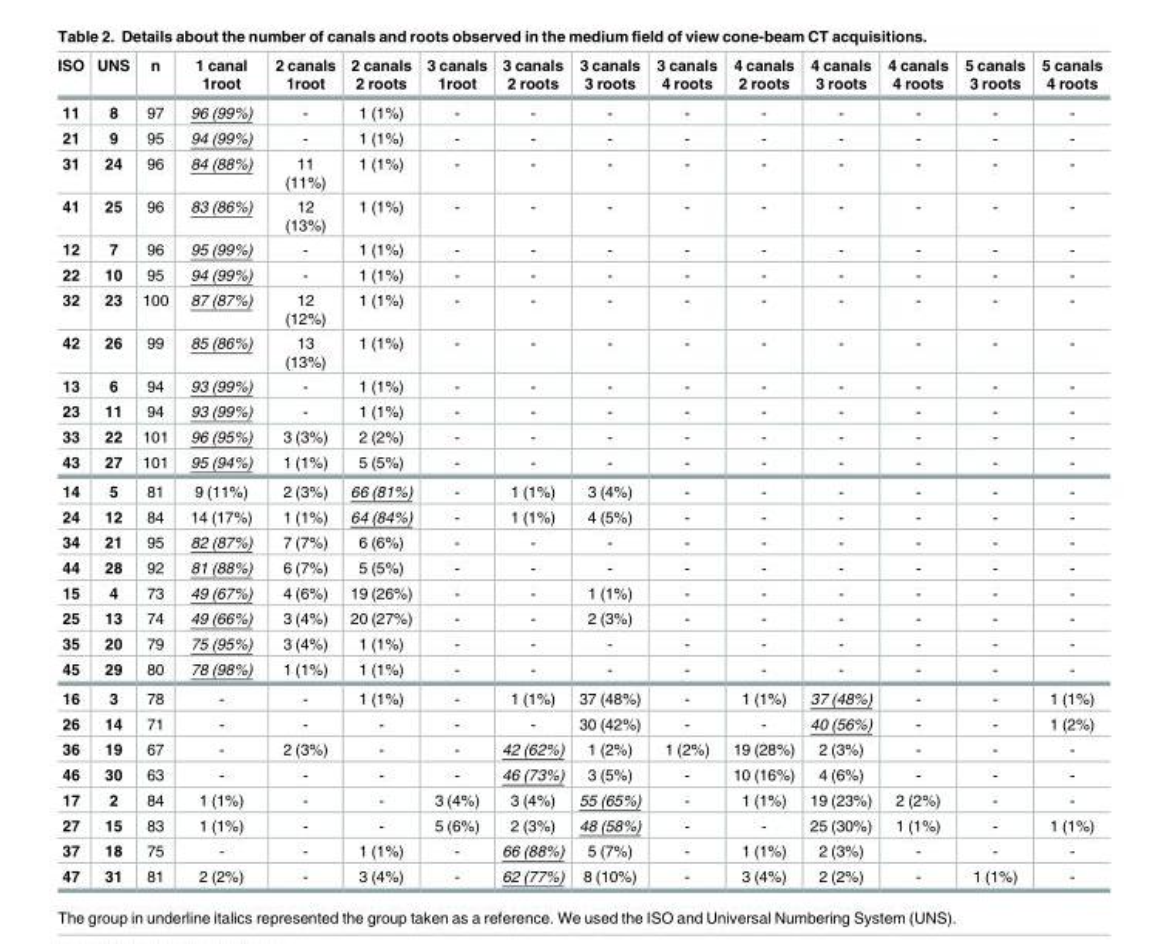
<table><thead><tr><td>ISO</td><td>UNS</td><td>n</td><td>1 canal 1root</td><td>2 canals 1root</td><td>2 canals 2 roots</td><td>3 canals 1root</td><td>3 canals 2 roots</td><td>3 canals 3 roots</td><td>3 canals 4 roots</td><td>4 canals 2 roots</td><td>4 canals 3 roots</td><td>4 canals 4 roots</td><td>5 canals 3 roots</td><td>5 canals 4 roots</td></tr></thead><tbody><tr><td>11</td><td>8</td><td>97</td><td>96 (99%)</td><td>-</td><td>1 (1%)</td><td>-</td><td>-</td><td>-</td><td>-</td><td>-</td><td>-</td><td>-</td><td>-</td><td>-</td></tr><tr><td>21</td><td>9</td><td>95</td><td>94 (99%)</td><td>-</td><td>1 (1%)</td><td>-</td><td>-</td><td>-</td><td>-</td><td>-</td><td>-</td><td>-</td><td>-</td><td>-</td></tr><tr><td>31</td><td>24</td><td>96</td><td>84 (88%)</td><td>11 (11%)</td><td>1 (1%)</td><td>-</td><td>-</td><td>-</td><td>-</td><td>-</td><td>-</td><td>-</td><td>-</td><td>-</td></tr><tr><td>41</td><td>25</td><td>96</td><td>83 (86%)</td><td>12 (13%)</td><td>1 (1%)</td><td>-</td><td>-</td><td>-</td><td>-</td><td>-</td><td>-</td><td>-</td><td>-</td><td>-</td></tr><tr><td>12</td><td>7</td><td>96</td><td>95 (99%)</td><td>-</td><td>1 (1%)</td><td>-</td><td>-</td><td>-</td><td>-</td><td>-</td><td>-</td><td>-</td><td>-</td><td>-</td></tr><tr><td>22</td><td>10</td><td>95</td><td>94 (99%)</td><td>-</td><td>1 (1%)</td><td>-</td><td>-</td><td>-</td><td>-</td><td>-</td><td>-</td><td>-</td><td>-</td><td>-</td></tr><tr><td>32</td><td>23</td><td>100</td><td>87 (87%)</td><td>12 (12%)</td><td>1 (1%)</td><td>-</td><td>-</td><td>-</td><td>-</td><td>-</td><td>-</td><td>-</td><td>-</td><td>-</td></tr><tr><td>42</td><td>26</td><td>99</td><td>85 (86%)</td><td>13 (13%)</td><td>1 (1%)</td><td>-</td><td>-</td><td>-</td><td>-</td><td>-</td><td>-</td><td>-</td><td>-</td><td>-</td></tr><tr><td>13</td><td>6</td><td>94</td><td>93 (99%)</td><td>-</td><td>1 (1%)</td><td>-</td><td>-</td><td>-</td><td>-</td><td>-</td><td>-</td><td>-</td><td>-</td><td>-</td></tr><tr><td>23</td><td>11</td><td>94</td><td>93 (99%)</td><td>-</td><td>1 (1%)</td><td>-</td><td>-</td><td>-</td><td>-</td><td>-</td><td>-</td><td>-</td><td>-</td><td>-</td></tr><tr><td>33</td><td>22</td><td>101</td><td>96 (95%)</td><td>3 (3%)</td><td>2 (2%)</td><td>-</td><td>-</td><td>-</td><td>-</td><td>-</td><td>-</td><td>-</td><td>-</td><td>-</td></tr><tr><td>43</td><td>27</td><td>101</td><td>95 (94%)</td><td>1 (1%)</td><td>5 (5%)</td><td>-</td><td>-</td><td>-</td><td>-</td><td>-</td><td>-</td><td>-</td><td>-</td><td>-</td></tr><tr><td>14</td><td>5</td><td>81</td><td>9 (11%)</td><td>2 (3%)</td><td>66 (81%)</td><td>-</td><td>1 (1%)</td><td>3 (4%)</td><td>-</td><td>-</td><td>-</td><td>-</td><td>-</td><td>-</td></tr><tr><td>24</td><td>12</td><td>84</td><td>14 (17%)</td><td>1 (1%)</td><td>64 (84%)</td><td>-</td><td>1 (1%)</td><td>4 (5%)</td><td>-</td><td>-</td><td>-</td><td>-</td><td>-</td><td>-</td></tr><tr><td>34</td><td>21</td><td>95</td><td>82 (87%)</td><td>7 (7%)</td><td>6 (6%)</td><td>-</td><td>-</td><td>-</td><td>-</td><td>-</td><td>-</td><td>-</td><td>-</td><td>-</td></tr><tr><td>44</td><td>28</td><td>92</td><td>81 (88%)</td><td>6 (7%)</td><td>5 (5%)</td><td>-</td><td>-</td><td>-</td><td>-</td><td>-</td><td>-</td><td>-</td><td>-</td><td>-</td></tr><tr><td>15</td><td>4</td><td>73</td><td>49 (67%)</td><td>4 (6%)</td><td>19 (26%)</td><td>-</td><td>-</td><td>1 (1%)</td><td>-</td><td>-</td><td>-</td><td>-</td><td>-</td><td>-</td></tr><tr><td>25</td><td>13</td><td>74</td><td>49 (66%)</td><td>3 (4%)</td><td>20 (27%)</td><td>-</td><td>-</td><td>2 (3%)</td><td>-</td><td>-</td><td>-</td><td>-</td><td>-</td><td>-</td></tr><tr><td>35</td><td>20</td><td>79</td><td>75 (95%)</td><td>3 (4%)</td><td>1 (1%)</td><td>-</td><td>-</td><td>-</td><td>-</td><td>-</td><td>-</td><td>-</td><td>-</td><td>-</td></tr><tr><td>45</td><td>29</td><td>80</td><td>78 (98%)</td><td>1 (1%)</td><td>1 (1%)</td><td>-</td><td>-</td><td>-</td><td>-</td><td>-</td><td>-</td><td>-</td><td>-</td><td>-</td></tr><tr><td>16</td><td>3</td><td>78</td><td>-</td><td>-</td><td>1 (1%)</td><td>-</td><td>1 (1%)</td><td>37 (48%)</td><td>-</td><td>1 (1%)</td><td>37 (48%)</td><td>-</td><td>-</td><td>1 (1%)</td></tr><tr><td>26</td><td>14</td><td>71</td><td>-</td><td>-</td><td>-</td><td>-</td><td>-</td><td>30 (42%)</td><td>-</td><td>-</td><td>40 (56%)</td><td>-</td><td>-</td><td>1 (2%)</td></tr><tr><td>36</td><td>19</td><td>67</td><td>-</td><td>2 (3%)</td><td>-</td><td>-</td><td>42 (62%)</td><td>1 (2%)</td><td>1 (2%)</td><td>19 (28%)</td><td>2 (3%)</td><td>-</td><td>-</td><td>-</td></tr><tr><td>46</td><td>30</td><td>63</td><td>-</td><td>-</td><td>-</td><td>-</td><td>46 (73%)</td><td>3 (5%)</td><td>-</td><td>10 (16%)</td><td>4 (6%)</td><td>-</td><td>-</td><td>-</td></tr><tr><td>17</td><td>2</td><td>84</td><td>1 (1%)</td><td>-</td><td>-</td><td>3 (4%)</td><td>3 (4%)</td><td>55 (65%)</td><td>-</td><td>1 (1%)</td><td>19 (23%)</td><td>2 (2%)</td><td>-</td><td>-</td></tr><tr><td>27</td><td>15</td><td>83</td><td>1 (1%)</td><td>-</td><td>-</td><td>5 (6%)</td><td>2 (3%)</td><td>48 (58%)</td><td>-</td><td>-</td><td>25 (30%)</td><td>1 (1%)</td><td>-</td><td>1 (1%)</td></tr><tr><td>37</td><td>18</td><td>75</td><td>-</td><td>-</td><td>1 (1%)</td><td>-</td><td>66 (88%)</td><td>5 (7%)</td><td>-</td><td>1 (1%)</td><td>2 (3%)</td><td>-</td><td>-</td><td>-</td></tr><tr><td>47</td><td>31</td><td>81</td><td>2 (2%)</td><td>-</td><td>3 (4%)</td><td>-</td><td>62 (77%)</td><td>8 (10%)</td><td>-</td><td>3 (4%)</td><td>2 (2%)</td><td>-</td><td>1 (1%)</td><td>-</td></tr></tbody></table>